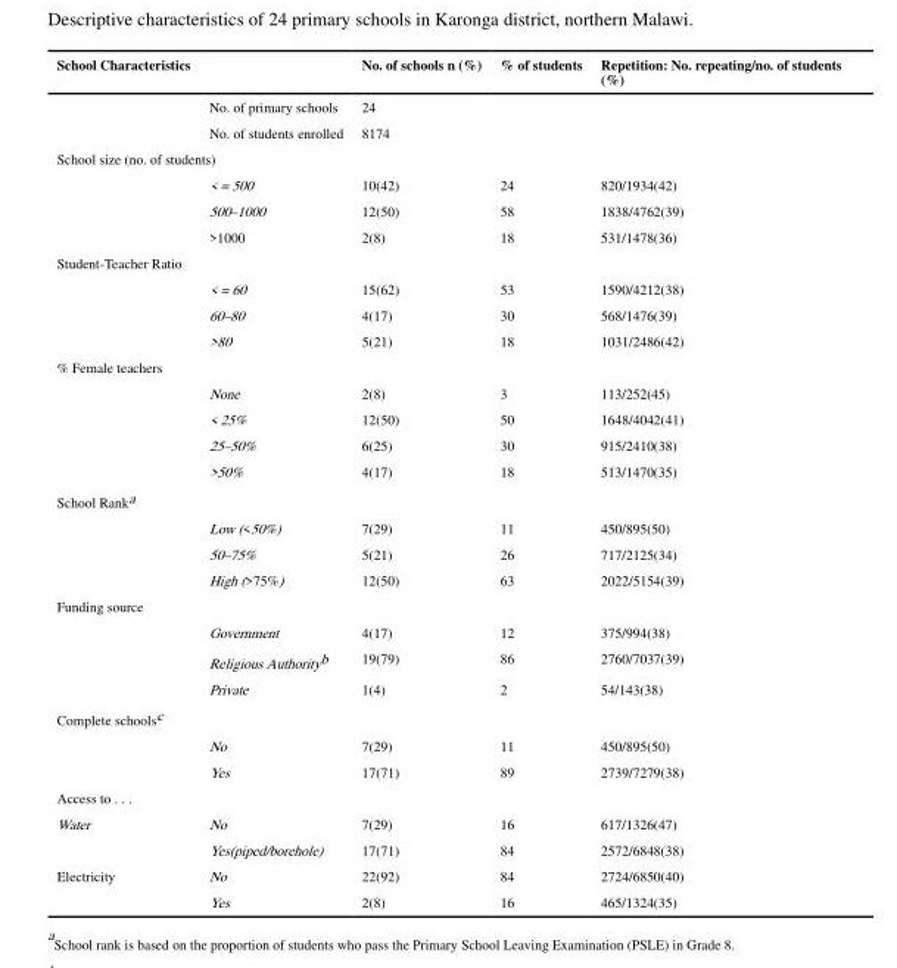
<table><thead><tr><td>School Characteristics</td><td></td><td>No. of schools n (%)</td><td>% of students</td><td>Repetition: No. repeating/no. of students (%)</td></tr></thead><tbody><tr><td></td><td>No. of primary schools</td><td>24</td><td></td><td></td></tr><tr><td></td><td>No. of students enrolled</td><td>8174</td><td></td><td></td></tr><tr><td colspan="5">School size (no. of students)</td></tr><tr><td></td><td>&lt; = 500</td><td>10(42)</td><td>24</td><td>820/1934(42)</td></tr><tr><td></td><td>500–1000</td><td>12(50)</td><td>58</td><td>1838/4762(39)</td></tr><tr><td></td><td>&gt;1000</td><td>2(8)</td><td>18</td><td>531/1478(36)</td></tr><tr><td colspan="5">Student-Teacher Ratio</td></tr><tr><td></td><td>&lt; = 60</td><td>15(62)</td><td>53</td><td>1590/4212(38)</td></tr><tr><td></td><td>60–80</td><td>4(17)</td><td>30</td><td>568/1476(39)</td></tr><tr><td></td><td>&gt;80</td><td>5(21)</td><td>18</td><td>1031/2486(42)</td></tr><tr><td colspan="5">% Female teachers</td></tr><tr><td></td><td>None</td><td>2(8)</td><td>3</td><td>113/252(45)</td></tr><tr><td></td><td>&lt; 25%</td><td>12(50)</td><td>50</td><td>1648/4042(41)</td></tr><tr><td></td><td>25–50%</td><td>6(25)</td><td>30</td><td>915/2410(38)</td></tr><tr><td></td><td>&gt;50%</td><td>4(17)</td><td>18</td><td>513/1470(35)</td></tr><tr><td colspan="5">School Rank<sup>a</sup></td></tr><tr><td></td><td>Low (&lt;50%)</td><td>7(29)</td><td>11</td><td>450/895(50)</td></tr><tr><td></td><td>50–75%</td><td>5(21)</td><td>26</td><td>717/2125(34)</td></tr><tr><td></td><td>High (&gt;75%)</td><td>12(50)</td><td>63</td><td>2022/5154(39)</td></tr><tr><td colspan="5">Funding source</td></tr><tr><td></td><td>Government</td><td>4(17)</td><td>12</td><td>375/994(38)</td></tr><tr><td></td><td>Religious Authority<sup>b</sup></td><td>19(79)</td><td>86</td><td>2760/7037(39)</td></tr><tr><td></td><td>Private</td><td>1(4)</td><td>2</td><td>54/143(38)</td></tr><tr><td colspan="5">Complete schools<sup>c</sup></td></tr><tr><td></td><td>No</td><td>7(29)</td><td>11</td><td>450/895(50)</td></tr><tr><td></td><td>Yes</td><td>17(71)</td><td>89</td><td>2739/7279(38)</td></tr><tr><td colspan="5">Access to . . .</td></tr><tr><td rowspan="2">Water</td><td>No</td><td>7(29)</td><td>16</td><td>617/1326(47)</td></tr><tr><td>Yes(piped/borehole)</td><td>17(71)</td><td>84</td><td>2572/6848(38)</td></tr><tr><td rowspan="2">Electricity</td><td>No</td><td>22(92)</td><td>84</td><td>2724/6850(40)</td></tr><tr><td>Yes</td><td>2(8)</td><td>16</td><td>465/1324(35)</td></tr></tbody></table>